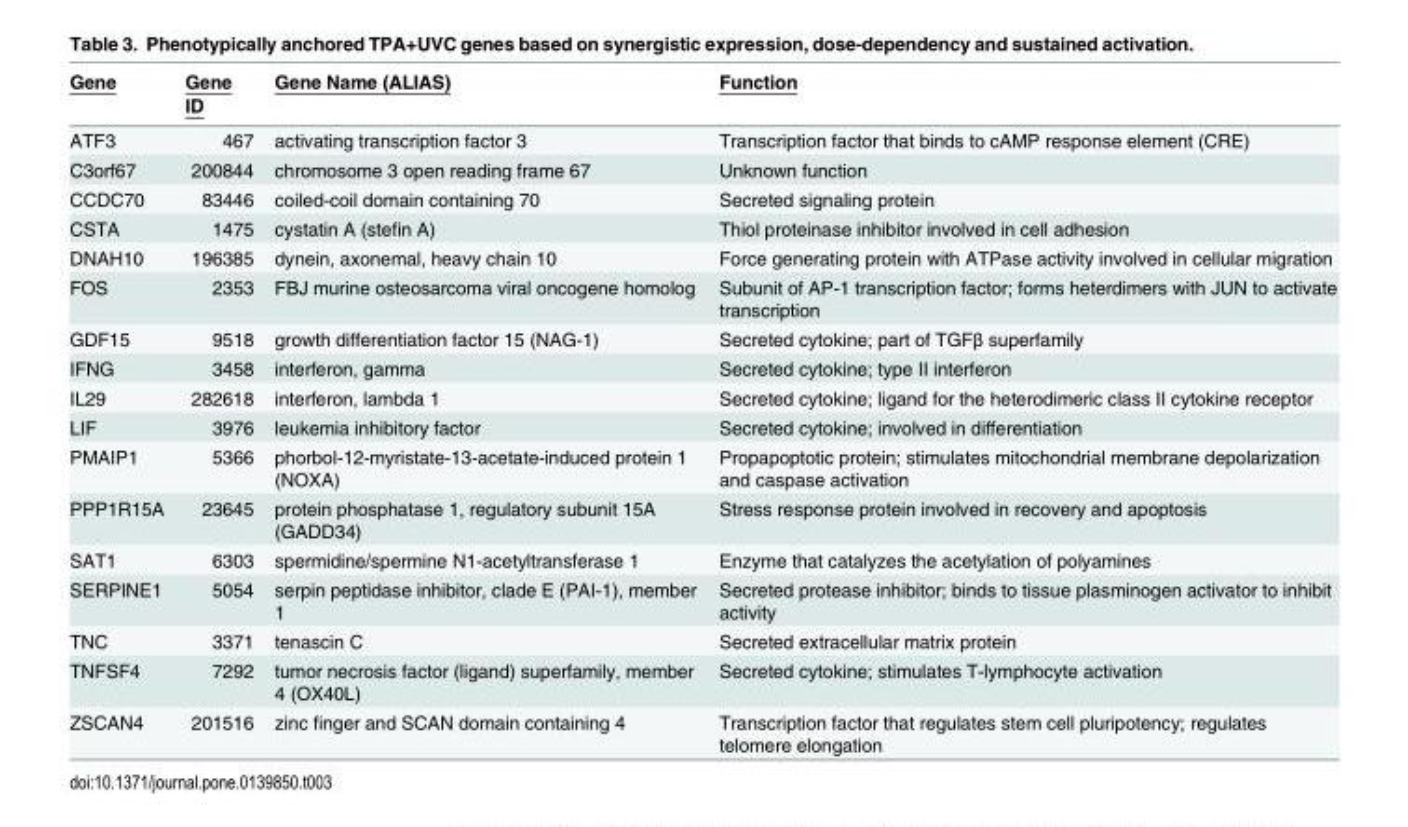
<table><thead><tr><td>Gene</td><td>Gene ID</td><td>Gene Name (ALIAS)</td><td>Function</td></tr></thead><tbody><tr><td>ATF3</td><td>467</td><td>activating transcription factor 3</td><td>Transcription factor that binds to cAMP response element (CRE)</td></tr><tr><td>C3orf67</td><td>200844</td><td>chromosome 3 open reading frame 67</td><td>Unknown function</td></tr><tr><td>CCDC70</td><td>83446</td><td>coiled-coil domain containing 70</td><td>Secreted signaling protein</td></tr><tr><td>CSTA</td><td>1475</td><td>cystatin A (stefin A)</td><td>Thiol proteinase inhibitor involved in cell adhesion</td></tr><tr><td>DNAH10</td><td>196385</td><td>dynein, axonemal, heavy chain 10</td><td>Force generating protein with ATPase activity involved in cellular migration</td></tr><tr><td>FOS</td><td>2353</td><td>FBJ murine osteosarcoma viral oncogene homolog</td><td>Subunit of AP-1 transcription factor; forms heterdimers with JUN to activate transcription</td></tr><tr><td>GDF15</td><td>9518</td><td>growth differentiation factor 15 (NAG-1)</td><td>Secreted cytokine; part of TGFβ superfamily</td></tr><tr><td>IFNG</td><td>3458</td><td>interferon, gamma</td><td>Secreted cytokine; type II interferon</td></tr><tr><td>IL29</td><td>282618</td><td>interferon, lambda 1</td><td>Secreted cytokine; ligand for the heterodimeric class II cytokine receptor</td></tr><tr><td>LIF</td><td>3976</td><td>leukemia inhibitory factor</td><td>Secreted cytokine; involved in differentiation</td></tr><tr><td>PMAIP1</td><td>5366</td><td>phorbol-12-myristate-13-acetate-induced protein 1 (NOXA)</td><td>Propapoptotic protein; stimulates mitochondrial membrane depolarization and caspase activation</td></tr><tr><td>PPP1R15A</td><td>23645</td><td>protein phosphatase 1, regulatory subunit 15A (GADD34)</td><td>Stress response protein involved in recovery and apoptosis</td></tr><tr><td>SAT1</td><td>6303</td><td>spermidine/spermine N1-acetyltransferase 1</td><td>Enzyme that catalyzes the acetylation of polyamines</td></tr><tr><td>SERPINE1</td><td>5054</td><td>serpin peptidase inhibitor, clade E (PAI-1), member 1</td><td>Secreted protease inhibitor; binds to tissue plasminogen activator to inhibit activity</td></tr><tr><td>TNC</td><td>3371</td><td>tenascin C</td><td>Secreted extracellular matrix protein</td></tr><tr><td>TNFSF4</td><td>7292</td><td>tumor necrosis factor (ligand) superfamily, member 4 (OX40L)</td><td>Secreted cytokine; stimulates T-lymphocyte activation</td></tr><tr><td>ZSCAN4</td><td>201516</td><td>zinc finger and SCAN domain containing 4</td><td>Transcription factor that regulates stem cell pluripotency; regulates telomere elongation</td></tr></tbody></table>